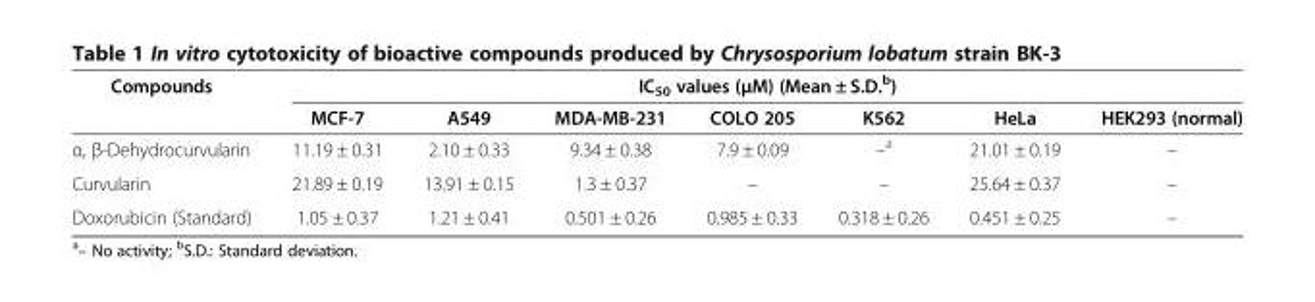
<table><thead><tr><td rowspan="2">Compounds</td><td colspan="7">IC<sub>50</sub> values (μM) (Mean ± S.D.<sup>b</sup>)</td></tr><tr><td>MCF-7</td><td>A549</td><td>MDA-MB-231</td><td>COLO 205</td><td>K562</td><td>HeLa</td><td>HEK293 (normal)</td></tr></thead><tbody><tr><td>α, β-Dehydrocurvularin</td><td>11.19 ± 0.31</td><td>2.10 ± 0.33</td><td>9.34 ± 0.38</td><td>7.9 ± 0.09</td><td>–<sup>a</sup></td><td>21.01 ± 0.19</td><td>–</td></tr><tr><td>Curvularin</td><td>21.89 ± 0.19</td><td>13.91 ± 0.15</td><td>1.3 ± 0.37</td><td>–</td><td>–</td><td>25.64 ± 0.37</td><td>–</td></tr><tr><td>Doxorubicin (Standard)</td><td>1.05 ± 0.37</td><td>1.21 ± 0.41</td><td>0.501 ± 0.26</td><td>0.985 ± 0.33</td><td>0.318 ± 0.26</td><td>0.451 ± 0.25</td><td>–</td></tr></tbody></table>